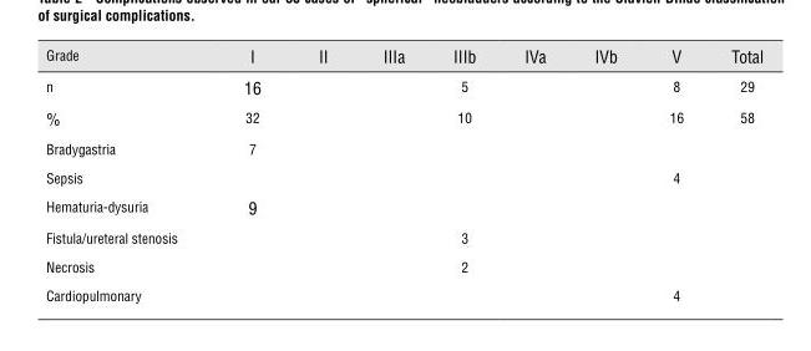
<table><thead><tr><td>Grade</td><td>I</td><td>II</td><td>IIIa</td><td>IIIb</td><td>IVa</td><td>IVb</td><td>V</td><td>Total</td></tr></thead><tbody><tr><td>n</td><td>16</td><td></td><td></td><td>5</td><td></td><td></td><td>8</td><td>29</td></tr><tr><td>%</td><td>32</td><td></td><td></td><td>10</td><td></td><td></td><td>16</td><td>58</td></tr><tr><td>Bradygastria</td><td>7</td><td></td><td></td><td></td><td></td><td></td><td></td><td></td></tr><tr><td>Sepsis</td><td></td><td></td><td></td><td></td><td></td><td></td><td>4</td><td></td></tr><tr><td>Hematuria-dysuria</td><td>9</td><td></td><td></td><td></td><td></td><td></td><td></td><td></td></tr><tr><td>Fistula/ureteral stenosis</td><td></td><td></td><td></td><td>3</td><td></td><td></td><td></td><td></td></tr><tr><td>Necrosis</td><td></td><td></td><td></td><td>2</td><td></td><td></td><td></td><td></td></tr><tr><td>Cardiopulmonary</td><td></td><td></td><td></td><td></td><td></td><td></td><td>4</td><td></td></tr></tbody></table>